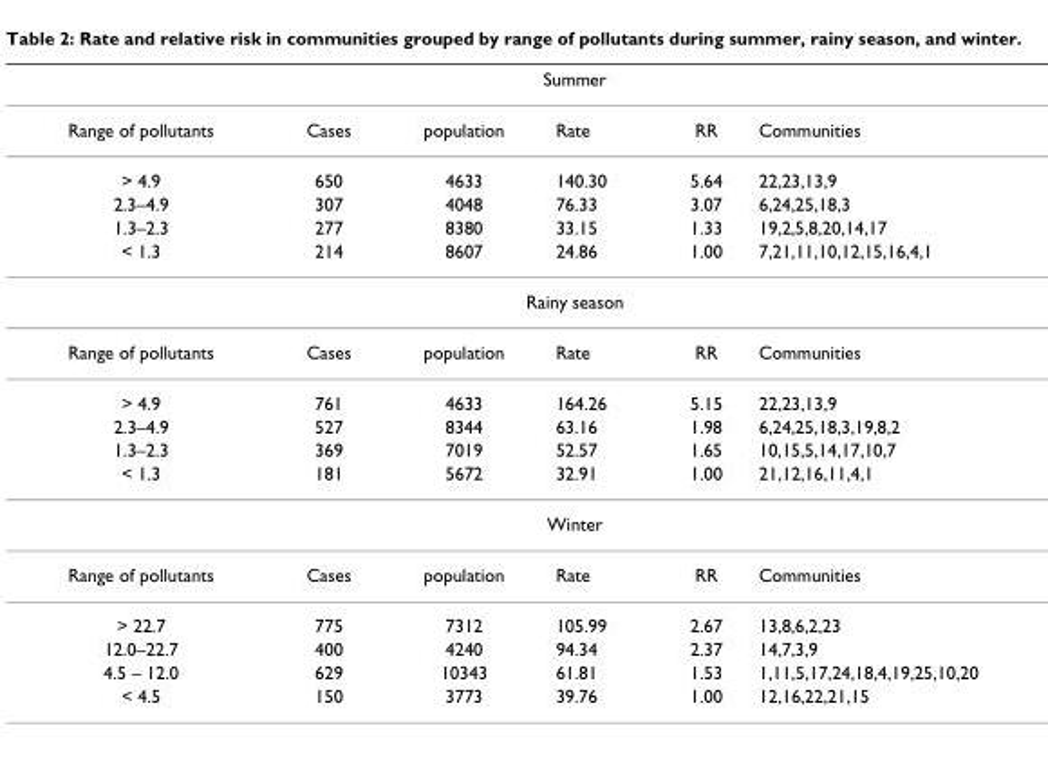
<table><thead><tr><td colspan="6">Summer</td></tr><tr><td>Range of pollutants</td><td>Cases</td><td>population</td><td>Rate</td><td>RR</td><td>Communities</td></tr></thead><tbody><tr><td>&gt; 4.9</td><td>650</td><td>4633</td><td>140.30</td><td>5.64</td><td>22,23,13,9</td></tr><tr><td>2.3–4.9</td><td>307</td><td>4048</td><td>76.33</td><td>3.07</td><td>6,24,25,18,3</td></tr><tr><td>1.3–2.3</td><td>277</td><td>8380</td><td>33.15</td><td>1.33</td><td>19,2,5,8,20,14,17</td></tr><tr><td>&lt; 1.3</td><td>214</td><td>8607</td><td>24.86</td><td>1.00</td><td>7,21,11,10,12,15,16,4,1</td></tr><tr><td colspan="6">Rainy season</td></tr><tr><td>Range of pollutants</td><td>Cases</td><td>population</td><td>Rate</td><td>RR</td><td>Communities</td></tr><tr><td>&gt; 4.9</td><td>761</td><td>4633</td><td>164.26</td><td>5.15</td><td>22,23,13,9</td></tr><tr><td>2.3–4.9</td><td>527</td><td>8344</td><td>63.16</td><td>1.98</td><td>6,24,25,18,3,19,8,2</td></tr><tr><td>1.3–2.3</td><td>369</td><td>7019</td><td>52.57</td><td>1.65</td><td>10,15,5,14,17,10,7</td></tr><tr><td>&lt; 1.3</td><td>181</td><td>5672</td><td>32.91</td><td>1.00</td><td>21,12,16,11,4,1</td></tr><tr><td colspan="6">Winter</td></tr><tr><td>Range of pollutants</td><td>Cases</td><td>population</td><td>Rate</td><td>RR</td><td>Communities</td></tr><tr><td>&gt; 22.7</td><td>775</td><td>7312</td><td>105.99</td><td>2.67</td><td>13,8,6,2,23</td></tr><tr><td>12.0–22.7</td><td>400</td><td>4240</td><td>94.34</td><td>2.37</td><td>14,7,3,9</td></tr><tr><td>4.5 – 12.0</td><td>629</td><td>10343</td><td>61.81</td><td>1.53</td><td>1,11,5,17,24,18,4,19,25,10,20</td></tr><tr><td>&lt; 4.5</td><td>150</td><td>3773</td><td>39.76</td><td>1.00</td><td>12,16,22,21,15</td></tr></tbody></table>